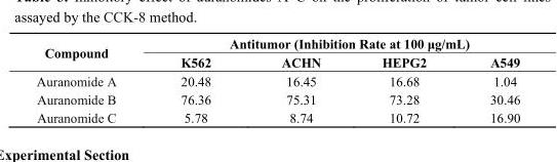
<table><thead><tr><td rowspan="2">Compound</td><td colspan="4">Antitumor (Inhibition Rate at 100 μg/mL)</td></tr><tr><td>K562</td><td>ACHN</td><td>HEPG2</td><td>A549</td></tr></thead><tbody><tr><td>Auranomide A</td><td>20.48</td><td>16.45</td><td>16.68</td><td>1.04</td></tr><tr><td>Auranomide B</td><td>76.36</td><td>75.31</td><td>73.28</td><td>30.46</td></tr><tr><td>Auranomide C</td><td>5.78</td><td>8.74</td><td>10.72</td><td>16.90</td></tr></tbody></table>